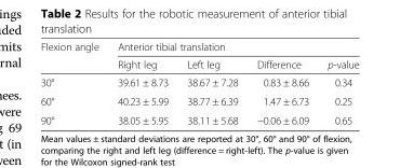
<table><thead><tr><td rowspan="2">Flexion angle</td><td colspan="4">Anterior tibial translation</td></tr><tr><td>Right leg</td><td>Left leg</td><td>Difference</td><td>p-value</td></tr></thead><tbody><tr><td>30°</td><td>39.61 ± 8.73</td><td>38.67 ± 7.28</td><td>0.83 ± 8.66</td><td>0.34</td></tr><tr><td>60°</td><td>40.23 ± 5.99</td><td>38.77 ± 6.39</td><td>1.47 ± 6.73</td><td>0.25</td></tr><tr><td>90°</td><td>38.05 ± 5.95</td><td>38.11 ± 5.68</td><td>−0.06 ± 6.09</td><td>0.65</td></tr></tbody></table>